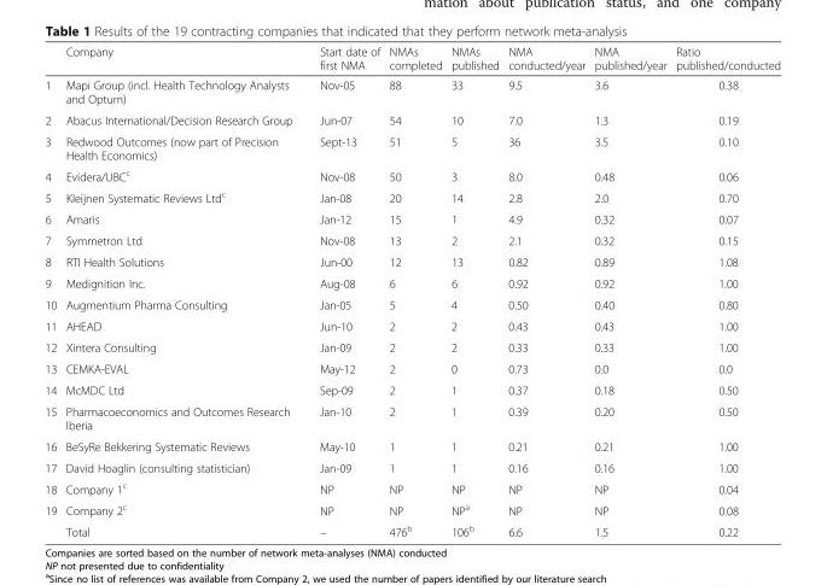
<table><thead><tr><td></td><td>Company</td><td>Start date of first NMA</td><td>NMAs completed</td><td>NMAs published</td><td>NMA conducted/year</td><td>NMA published/year</td><td>Ratio published/conducted</td></tr></thead><tbody><tr><td>1</td><td>Mapi Group (incl. Health Technology Analysts and Optum)</td><td>Nov-05</td><td>88</td><td>33</td><td>9.5</td><td>3.6</td><td>0.38</td></tr><tr><td>2</td><td>Abacus International/Decision Research Group</td><td>Jun-07</td><td>54</td><td>10</td><td>7.0</td><td>1.3</td><td>0.19</td></tr><tr><td>3</td><td>Redwood Outcomes (now part of Precision Health Economics)</td><td>Sept-13</td><td>51</td><td>5</td><td>36</td><td>3.5</td><td>0.10</td></tr><tr><td>4</td><td>Evidera/UBC<sup>c</sup></td><td>Nov-08</td><td>50</td><td>3</td><td>8.0</td><td>0.48</td><td>0.06</td></tr><tr><td>5</td><td>Kleijnen Systematic Reviews Ltd<sup>c</sup></td><td>Jan-08</td><td>20</td><td>14</td><td>2.8</td><td>2.0</td><td>0.70</td></tr><tr><td>6</td><td>Amaris</td><td>Jan-12</td><td>15</td><td>1</td><td>4.9</td><td>0.32</td><td>0.07</td></tr><tr><td>7</td><td>Symmetron Ltd</td><td>Nov-08</td><td>13</td><td>2</td><td>2.1</td><td>0.32</td><td>0.15</td></tr><tr><td>8</td><td>RTI Health Solutions</td><td>Jun-00</td><td>12</td><td>13</td><td>0.82</td><td>0.89</td><td>1.08</td></tr><tr><td>9</td><td>Medignition Inc.</td><td>Aug-08</td><td>6</td><td>6</td><td>0.92</td><td>0.92</td><td>1.00</td></tr><tr><td>10</td><td>Augmentium Pharma Consulting</td><td>Jan-05</td><td>5</td><td>4</td><td>0.50</td><td>0.40</td><td>0.80</td></tr><tr><td>11</td><td>AHEAD</td><td>Jun-10</td><td>2</td><td>2</td><td>0.43</td><td>0.43</td><td>1.00</td></tr><tr><td>12</td><td>Xintera Consulting</td><td>Jan-09</td><td>2</td><td>2</td><td>0.33</td><td>0.33</td><td>1.00</td></tr><tr><td>13</td><td>CEMKA-EVAL</td><td>May-12</td><td>2</td><td>0</td><td>0.73</td><td>0.0</td><td>0.0</td></tr><tr><td>14</td><td>McMDC Ltd</td><td>Sep-09</td><td>2</td><td>1</td><td>0.37</td><td>0.18</td><td>0.50</td></tr><tr><td>15</td><td>Pharmacoeconomics and Outcomes Research Iberia</td><td>Jan-10</td><td>2</td><td>1</td><td>0.39</td><td>0.20</td><td>0.50</td></tr><tr><td>16</td><td>BeSyRe Bekkering Systematic Reviews</td><td>May-10</td><td>1</td><td>1</td><td>0.21</td><td>0.21</td><td>1.00</td></tr><tr><td>17</td><td>David Hoaglin (consulting statistician)</td><td>Jan-09</td><td>1</td><td>1</td><td>0.16</td><td>0.16</td><td>1.00</td></tr><tr><td>18</td><td>Company 1<sup>c</sup></td><td>NP</td><td>NP</td><td>NP</td><td>NP</td><td>NP</td><td>0.04</td></tr><tr><td rowspan="2">19</td><td>Company 2<sup>c</sup></td><td>NP</td><td>NP</td><td>NP<sup>a</sup></td><td>NP</td><td>NP</td><td>0.08</td></tr><tr><td>Total</td><td>–</td><td>476<sup>b</sup></td><td>106<sup>b</sup></td><td>6.6</td><td>1.5</td><td>0.22</td></tr></tbody></table>